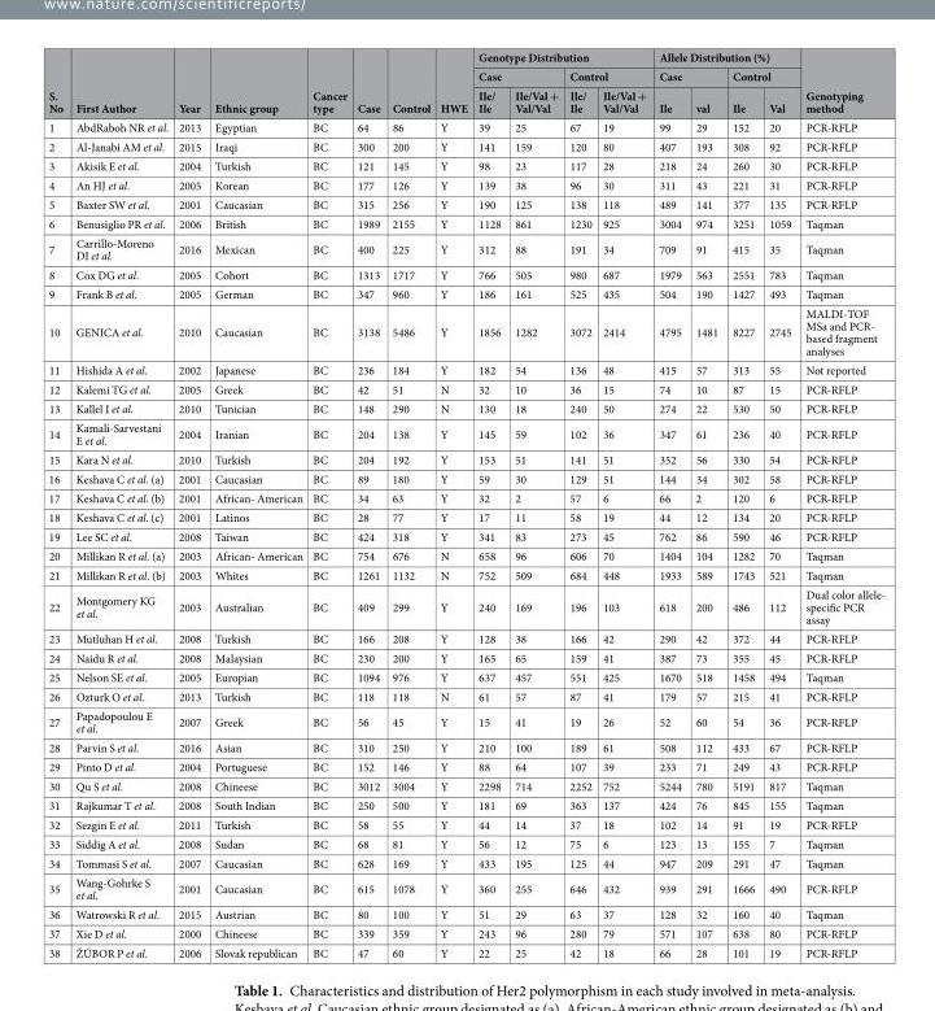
<table><thead><tr><td rowspan="3">S. No</td><td rowspan="3">First Author</td><td rowspan="3">Year</td><td rowspan="3">Ethnic group</td><td rowspan="3">Cancer type</td><td rowspan="3">Case</td><td rowspan="3">Control</td><td rowspan="3">HWE</td><td colspan="4">Genotype Distribution</td><td colspan="4">Allele Distribution (%)</td><td rowspan="3">Genotyping method</td></tr><tr><td colspan="2">Case</td><td colspan="2">Control</td><td colspan="2">Case</td><td colspan="2">Control</td></tr><tr><td>Ile/ Ile</td><td>Ile/Val + Val/Val</td><td>Ile/ Ile</td><td>Ile/Val + Val/Val</td><td>Ile</td><td>val</td><td>Ile</td><td>Val</td></tr></thead><tbody><tr><td>1</td><td>AbdRaboh NR et al.</td><td>2013</td><td>Egyptian</td><td>BC</td><td>64</td><td>86</td><td>Y</td><td>39</td><td>25</td><td>67</td><td>19</td><td>99</td><td>29</td><td>152</td><td>20</td><td>PCR-RFLP</td></tr><tr><td>2</td><td>Al-Janabi AM et al.</td><td>2015</td><td>Iraqi</td><td>BC</td><td>300</td><td>200</td><td>Y</td><td>141</td><td>159</td><td>120</td><td>80</td><td>407</td><td>193</td><td>308</td><td>92</td><td>PCR-RFLP</td></tr><tr><td>3</td><td>Akisik E et al.</td><td>2004</td><td>Turkish</td><td>BC</td><td>121</td><td>145</td><td>Y</td><td>98</td><td>23</td><td>117</td><td>28</td><td>218</td><td>24</td><td>260</td><td>30</td><td>PCR-RFLP</td></tr><tr><td>4</td><td>An HJ et al.</td><td>2005</td><td>Korean</td><td>BC</td><td>177</td><td>126</td><td>Y</td><td>139</td><td>38</td><td>96</td><td>30</td><td>311</td><td>43</td><td>221</td><td>31</td><td>PCR-RFLP</td></tr><tr><td>5</td><td>Baxter SW et al.</td><td>2001</td><td>Caucasian</td><td>BC</td><td>315</td><td>256</td><td>Y</td><td>190</td><td>125</td><td>138</td><td>118</td><td>489</td><td>141</td><td>377</td><td>135</td><td>PCR-RFLP</td></tr><tr><td>6</td><td>Benusiglio PR et al.</td><td>2006</td><td>British</td><td>BC</td><td>1989</td><td>2155</td><td>Y</td><td>1128</td><td>861</td><td>1230</td><td>925</td><td>3004</td><td>974</td><td>3251</td><td>1059</td><td>Taqman</td></tr><tr><td>7</td><td>Carrillo-Moreno DI et al.</td><td>2016</td><td>Mexican</td><td>BC</td><td>400</td><td>225</td><td>Y</td><td>312</td><td>88</td><td>191</td><td>34</td><td>709</td><td>91</td><td>415</td><td>35</td><td>Taqman</td></tr><tr><td>8</td><td>Cox DG et al.</td><td>2005</td><td>Cohort</td><td>BC</td><td>1313</td><td>1717</td><td>Y</td><td>766</td><td>505</td><td>980</td><td>687</td><td>1979</td><td>563</td><td>2551</td><td>783</td><td>Taqman</td></tr><tr><td>9</td><td>Frank B et al.</td><td>2005</td><td>German</td><td>BC</td><td>347</td><td>960</td><td>Y</td><td>186</td><td>161</td><td>525</td><td>435</td><td>504</td><td>190</td><td>1427</td><td>493</td><td>Taqman</td></tr><tr><td>10</td><td>GENICA et al.</td><td>2010</td><td>Caucasian</td><td>BC</td><td>3138</td><td>5486</td><td>Y</td><td>1856</td><td>1282</td><td>3072</td><td>2414</td><td>4795</td><td>1481</td><td>8227</td><td>2745</td><td>MALDI‐TOF MSa and PCR‐ based fragment analyses</td></tr><tr><td>11</td><td>Hishida A et al.</td><td>2002</td><td>Japanese</td><td>BC</td><td>236</td><td>184</td><td>Y</td><td>182</td><td>54</td><td>136</td><td>48</td><td>415</td><td>57</td><td>313</td><td>55</td><td>Not reported</td></tr><tr><td>12</td><td>Kalemi TG et al.</td><td>2005</td><td>Greek</td><td>BC</td><td>42</td><td>51</td><td>N</td><td>32</td><td>10</td><td>36</td><td>15</td><td>74</td><td>10</td><td>87</td><td>15</td><td>PCR-RFLP</td></tr><tr><td>13</td><td>Kallel I et al.</td><td>2010</td><td>Tunician</td><td>BC</td><td>148</td><td>290</td><td>N</td><td>130</td><td>18</td><td>240</td><td>50</td><td>274</td><td>22</td><td>530</td><td>50</td><td>PCR-RFLP</td></tr><tr><td>14</td><td>Kamali-Sarvestani E et al.</td><td>2004</td><td>Iranian</td><td>BC</td><td>204</td><td>138</td><td>Y</td><td>145</td><td>59</td><td>102</td><td>36</td><td>347</td><td>61</td><td>236</td><td>40</td><td>PCR-RFLP</td></tr><tr><td>15</td><td>Kara N et al.</td><td>2010</td><td>Turkish</td><td>BC</td><td>204</td><td>192</td><td>Y</td><td>153</td><td>51</td><td>141</td><td>51</td><td>352</td><td>56</td><td>330</td><td>54</td><td>PCR-RFLP</td></tr><tr><td>16</td><td>Keshava C et al. (a)</td><td>2001</td><td>Caucasian</td><td>BC</td><td>89</td><td>180</td><td>Y</td><td>59</td><td>30</td><td>129</td><td>51</td><td>144</td><td>34</td><td>302</td><td>58</td><td>PCR-RFLP</td></tr><tr><td>17</td><td>Keshava C et al. (b)</td><td>2001</td><td>African- American</td><td>BC</td><td>34</td><td>63</td><td>Y</td><td>32</td><td>2</td><td>57</td><td>6</td><td>66</td><td>2</td><td>120</td><td>6</td><td>PCR-RFLP</td></tr><tr><td>18</td><td>Keshava C et al. (c)</td><td>2001</td><td>Latinos</td><td>BC</td><td>28</td><td>77</td><td>Y</td><td>17</td><td>11</td><td>58</td><td>19</td><td>44</td><td>12</td><td>134</td><td>20</td><td>PCR-RFLP</td></tr><tr><td>19</td><td>Lee SC et al.</td><td>2008</td><td>Taiwan</td><td>BC</td><td>424</td><td>318</td><td>Y</td><td>341</td><td>83</td><td>273</td><td>45</td><td>762</td><td>86</td><td>590</td><td>46</td><td>PCR-RFLP</td></tr><tr><td>20</td><td>Millikan R et al. (a)</td><td>2003</td><td>African- American</td><td>BC</td><td>754</td><td>676</td><td>N</td><td>658</td><td>96</td><td>606</td><td>70</td><td>1404</td><td>104</td><td>1282</td><td>70</td><td>Taqman</td></tr><tr><td>21</td><td>Millikan R et al. (b)</td><td>2003</td><td>Whites</td><td>BC</td><td>1261</td><td>1132</td><td>N</td><td>752</td><td>509</td><td>684</td><td>448</td><td>1933</td><td>589</td><td>1743</td><td>521</td><td>Taqman</td></tr><tr><td>22</td><td>Montgomery KG et al.</td><td>2003</td><td>Australian</td><td>BC</td><td>409</td><td>299</td><td>Y</td><td>240</td><td>169</td><td>196</td><td>103</td><td>618</td><td>200</td><td>486</td><td>112</td><td>Dual color allele‐ specific PCR assay</td></tr><tr><td>23</td><td>Mutluhan H et al.</td><td>2008</td><td>Turkish</td><td>BC</td><td>166</td><td>208</td><td>Y</td><td>128</td><td>38</td><td>166</td><td>42</td><td>290</td><td>42</td><td>372</td><td>44</td><td>PCR-RFLP</td></tr><tr><td>24</td><td>Naidu R et al.</td><td>2008</td><td>Malaysian</td><td>BC</td><td>230</td><td>200</td><td>Y</td><td>165</td><td>65</td><td>159</td><td>41</td><td>387</td><td>73</td><td>355</td><td>45</td><td>PCR-RFLP</td></tr><tr><td>25</td><td>Nelson SE et al.</td><td>2005</td><td>Europian</td><td>BC</td><td>1094</td><td>976</td><td>Y</td><td>637</td><td>457</td><td>551</td><td>425</td><td>1670</td><td>518</td><td>1458</td><td>494</td><td>Taqman</td></tr><tr><td>26</td><td>Ozturk O et al.</td><td>2013</td><td>Turkish</td><td>BC</td><td>118</td><td>118</td><td>N</td><td>61</td><td>57</td><td>87</td><td>41</td><td>179</td><td>57</td><td>215</td><td>41</td><td>PCR-RFLP</td></tr><tr><td>27</td><td>Papadopoulou E et al.</td><td>2007</td><td>Greek</td><td>BC</td><td>56</td><td>45</td><td>Y</td><td>15</td><td>41</td><td>19</td><td>26</td><td>52</td><td>60</td><td>54</td><td>36</td><td>PCR-RFLP</td></tr><tr><td>28</td><td>Parvin S et al.</td><td>2016</td><td>Asian</td><td>BC</td><td>310</td><td>250</td><td>Y</td><td>210</td><td>100</td><td>189</td><td>61</td><td>508</td><td>112</td><td>433</td><td>67</td><td>PCR-RFLP</td></tr><tr><td>29</td><td>Pinto D et al.</td><td>2004</td><td>Portuguese</td><td>BC</td><td>152</td><td>146</td><td>Y</td><td>88</td><td>64</td><td>107</td><td>39</td><td>233</td><td>71</td><td>249</td><td>43</td><td>PCR-RFLP</td></tr><tr><td>30</td><td>Qu S et al.</td><td>2008</td><td>Chineese</td><td>BC</td><td>3012</td><td>3004</td><td>Y</td><td>2298</td><td>714</td><td>2252</td><td>752</td><td>5244</td><td>780</td><td>5191</td><td>817</td><td>Taqman</td></tr><tr><td>31</td><td>Rajkumar T et al.</td><td>2008</td><td>South Indian</td><td>BC</td><td>250</td><td>500</td><td>Y</td><td>181</td><td>69</td><td>363</td><td>137</td><td>424</td><td>76</td><td>845</td><td>155</td><td>Taqman</td></tr><tr><td>32</td><td>Sezgin E et al.</td><td>2011</td><td>Turkish</td><td>BC</td><td>58</td><td>55</td><td>Y</td><td>44</td><td>14</td><td>37</td><td>18</td><td>102</td><td>14</td><td>91</td><td>19</td><td>PCR-RFLP</td></tr><tr><td>33</td><td>Siddig A et al.</td><td>2008</td><td>Sudan</td><td>BC</td><td>68</td><td>81</td><td>Y</td><td>56</td><td>12</td><td>75</td><td>6</td><td>123</td><td>13</td><td>155</td><td>7</td><td>Taqman</td></tr><tr><td>34</td><td>Tommasi S et al.</td><td>2007</td><td>Caucasian</td><td>BC</td><td>628</td><td>169</td><td>Y</td><td>433</td><td>195</td><td>125</td><td>44</td><td>947</td><td>209</td><td>291</td><td>47</td><td>Taqman</td></tr><tr><td>35</td><td>Wang-Gohrke S et al.</td><td>2001</td><td>Caucasian</td><td>BC</td><td>615</td><td>1078</td><td>Y</td><td>360</td><td>255</td><td>646</td><td>432</td><td>939</td><td>291</td><td>1666</td><td>490</td><td>PCR-RFLP</td></tr><tr><td>36</td><td>Watrowski R et al.</td><td>2015</td><td>Austrian</td><td>BC</td><td>80</td><td>100</td><td>Y</td><td>51</td><td>29</td><td>63</td><td>37</td><td>128</td><td>32</td><td>160</td><td>40</td><td>Taqman</td></tr><tr><td>37</td><td>Xie D et al.</td><td>2000</td><td>Chineese</td><td>BC</td><td>339</td><td>359</td><td>Y</td><td>243</td><td>96</td><td>280</td><td>79</td><td>571</td><td>107</td><td>638</td><td>80</td><td>PCR-RFLP</td></tr><tr><td>38</td><td>ŽÚBOR P et al.</td><td>2006</td><td>Slovak republican</td><td>BC</td><td>47</td><td>60</td><td>Y</td><td>22</td><td>25</td><td>42</td><td>18</td><td>66</td><td>28</td><td>101</td><td>19</td><td>PCR-RFLP</td></tr></tbody></table>